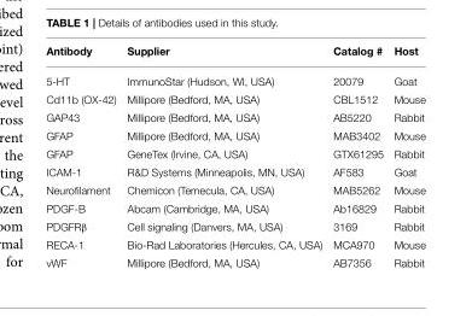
<table><thead><tr><td>Antibody</td><td>Supplier</td><td>Catalog #</td><td>Host</td></tr></thead><tbody><tr><td>5-HT</td><td>ImmunoStar (Hudson, WI, USA)</td><td>20079</td><td>Goat</td></tr><tr><td>Cd11b (OX-42)</td><td>Millipore (Bedford, MA, USA)</td><td>CBL1512</td><td>Mouse</td></tr><tr><td>GAP43</td><td>Millipore (Bedford, MA, USA)</td><td>AB5220</td><td>Rabbit</td></tr><tr><td>GFAP</td><td>Millipore (Bedford, MA, USA)</td><td>MAB3402</td><td>Mouse</td></tr><tr><td>GFAP</td><td>GeneTex (Irvine, CA, USA)</td><td>GTX61295</td><td>Rabbit</td></tr><tr><td>ICAM-1</td><td>R&amp;D Systems (Minneapolis, MN, USA)</td><td>AF583</td><td>Goat</td></tr><tr><td>Neurofilament</td><td>Chemicon (Temecula, CA, USA)</td><td>MAB5262</td><td>Mouse</td></tr><tr><td>PDGF-B</td><td>Abcam (Cambridge, MA, USA)</td><td>Ab16829</td><td>Rabbit</td></tr><tr><td>PDGFRβ</td><td>Cell signaling (Danvers, MA, USA)</td><td>3169</td><td>Rabbit</td></tr><tr><td>RECA-1</td><td>Bio-Rad Laboratories (Hercules, CA, USA)</td><td>MCA970</td><td>Mouse</td></tr><tr><td>vWF</td><td>Millipore (Bedford, MA, USA)</td><td>AB7356</td><td>Rabbit</td></tr></tbody></table>